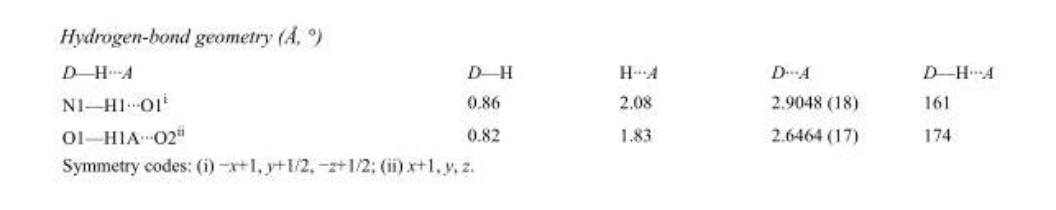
<table><tbody><tr><td>D—H···A</td><td>D—H</td><td>H···A</td><td>D···A</td><td>D—H···A</td></tr><tr><td>N1—H1···O1<sup>i</sup></td><td>0.86</td><td>2.08</td><td>2.9048 (18)</td><td>161</td></tr><tr><td>O1—H1A···O2<sup>ii</sup></td><td>0.82</td><td>1.83</td><td>2.6464 (17)</td><td>174</td></tr></tbody></table>